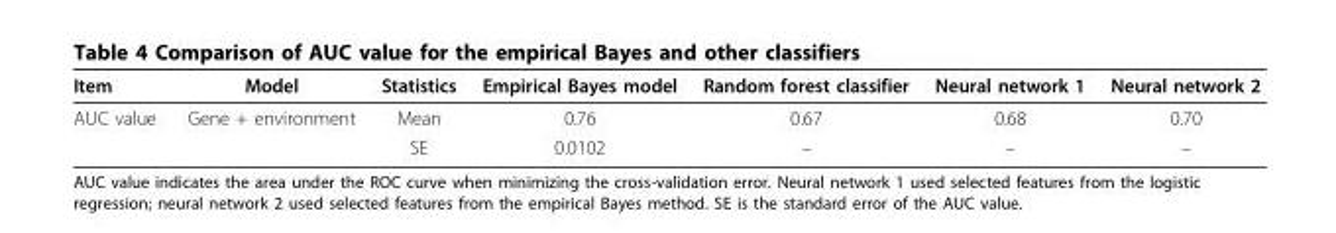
<table><thead><tr><td>Item</td><td>Model</td><td>Statistics</td><td>Empirical Bayes model</td><td>Random forest classifier</td><td>Neural network 1</td><td>Neural network 2</td></tr></thead><tbody><tr><td rowspan="2">AUC value</td><td>Gene + environment</td><td>Mean</td><td>0.76</td><td>0.67</td><td>0.68</td><td>0.70</td></tr><tr><td></td><td>SE</td><td>0.0102</td><td>–</td><td>–</td><td>–</td></tr></tbody></table>